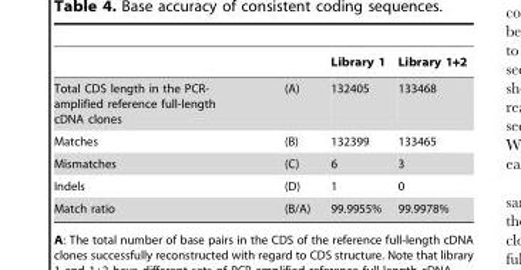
<table><thead><tr><td></td><td></td><td>Library 1</td><td>Library 1+2</td></tr></thead><tbody><tr><td>Total CDS length in the PCR- amplified reference full-length cDNA clones</td><td>(A)</td><td>132405</td><td>133468</td></tr><tr><td>Matches</td><td>(B)</td><td>132399</td><td>133465</td></tr><tr><td>Mismatches</td><td>(C)</td><td>6</td><td>3</td></tr><tr><td>Indels</td><td>(D)</td><td>1</td><td>0</td></tr><tr><td>Match ratio</td><td>(B/A)</td><td>99.9955%</td><td>99.9978%</td></tr></tbody></table>